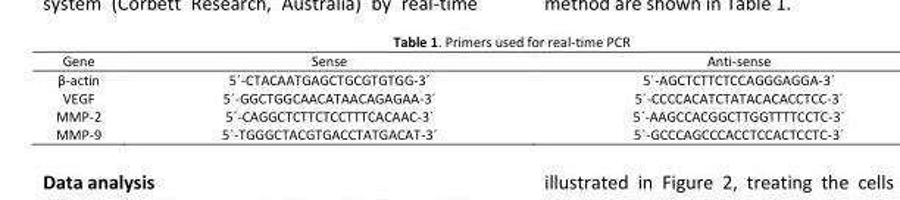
<table><thead><tr><td>Gene</td><td>Sense</td><td>Anti-sense</td></tr></thead><tbody><tr><td>β-actin</td><td>5´-CTACAATGAGCTGCGTGTGG-3´</td><td>5´-AGCTCTTCTCCAGGGAGGA-3´</td></tr><tr><td>VEGF</td><td>5´-GGCTGGCAACATAACAGAGAA-3´</td><td>5´-CCCCACATCTATACACACCTCC-3´</td></tr><tr><td>MMP-2</td><td>5´-CAGGCTCTTCTCCTTTCACAAC-3´</td><td>5´-AAGCCACGGCTTGGTTTTCCTC-3´</td></tr><tr><td>MMP-9</td><td>5´-TGGGCTACGTGACCTATGACAT-3´</td><td>5´-GCCCAGCCCACCTCCACTCCTC-3´</td></tr></tbody></table>